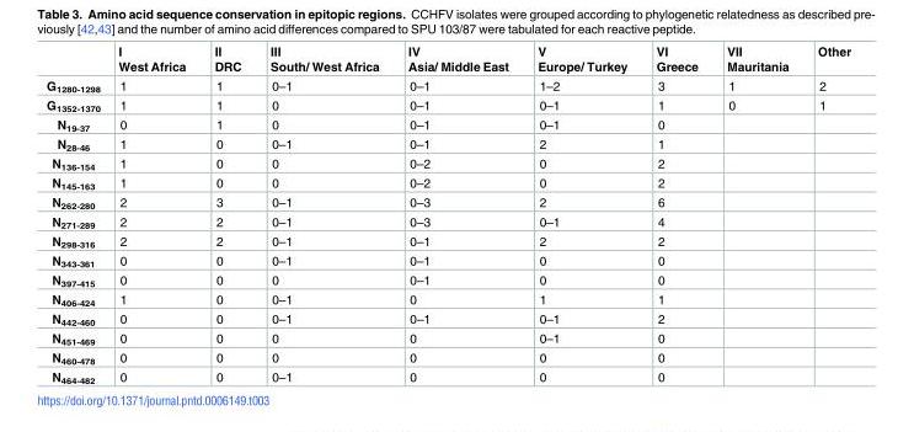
<table><thead><tr><td></td><td>I West Africa</td><td>II DRC</td><td>III South/ West Africa</td><td>IV Asia/ Middle East</td><td>V Europe/ Turkey</td><td>VI Greece</td><td>VII Mauritania</td><td>Other</td></tr></thead><tbody><tr><td>G<sub>1280-1298</sub></td><td>1</td><td>1</td><td>0–1</td><td>0–1</td><td>1–2</td><td>3</td><td>1</td><td>2</td></tr><tr><td>G<sub>1352-1370</sub></td><td>1</td><td>1</td><td>0</td><td>0–1</td><td>0–1</td><td>1</td><td>0</td><td>1</td></tr><tr><td>N<sub>19-37</sub></td><td>0</td><td>1</td><td>0</td><td>0–1</td><td>0–1</td><td>0</td><td></td><td></td></tr><tr><td>N<sub>28-46</sub></td><td>1</td><td>0</td><td>0–1</td><td>0–1</td><td>2</td><td>1</td><td></td><td></td></tr><tr><td>N<sub>136-154</sub></td><td>1</td><td>0</td><td>0</td><td>0–2</td><td>0</td><td>2</td><td></td><td></td></tr><tr><td>N<sub>145-163</sub></td><td>1</td><td>0</td><td>0</td><td>0–2</td><td>0</td><td>2</td><td></td><td></td></tr><tr><td>N<sub>262-280</sub></td><td>2</td><td>3</td><td>0–1</td><td>0–3</td><td>2</td><td>6</td><td></td><td></td></tr><tr><td>N<sub>271-289</sub></td><td>2</td><td>2</td><td>0–1</td><td>0–3</td><td>0–1</td><td>4</td><td></td><td></td></tr><tr><td>N<sub>298-316</sub></td><td>2</td><td>2</td><td>0–1</td><td>0–1</td><td>2</td><td>2</td><td></td><td></td></tr><tr><td>N<sub>343-361</sub></td><td>0</td><td>0</td><td>0–1</td><td>0–1</td><td>0</td><td>0</td><td></td><td></td></tr><tr><td>N<sub>397-415</sub></td><td>0</td><td>0</td><td>0</td><td>0–1</td><td>0</td><td>0</td><td></td><td></td></tr><tr><td>N<sub>406-424</sub></td><td>1</td><td>0</td><td>0–1</td><td>0</td><td>1</td><td>1</td><td></td><td></td></tr><tr><td>N<sub>442-460</sub></td><td>0</td><td>0</td><td>0–1</td><td>0–1</td><td>0–1</td><td>2</td><td></td><td></td></tr><tr><td>N<sub>451-469</sub></td><td>0</td><td>0</td><td>0</td><td>0</td><td>0–1</td><td>0</td><td></td><td></td></tr><tr><td>N<sub>460-478</sub></td><td>0</td><td>0</td><td>0</td><td>0</td><td>0</td><td>0</td><td></td><td></td></tr><tr><td>N<sub>464-482</sub></td><td>0</td><td>0</td><td>0–1</td><td>0</td><td>0</td><td>0</td><td></td><td></td></tr></tbody></table>